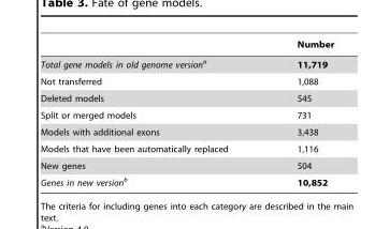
<table><thead><tr><td></td><td>Number</td></tr></thead><tbody><tr><td>Total gene models in old genome versiona</td><td>11,719</td></tr><tr><td>Not transferred</td><td>1,088</td></tr><tr><td>Deleted models</td><td>545</td></tr><tr><td>Split or merged models</td><td>731</td></tr><tr><td>Models with additional exons</td><td>3,438</td></tr><tr><td>Models that have been automatically replaced</td><td>1,116</td></tr><tr><td>New genes</td><td>504</td></tr><tr><td>Genes in new versionb</td><td>10,852</td></tr></tbody></table>